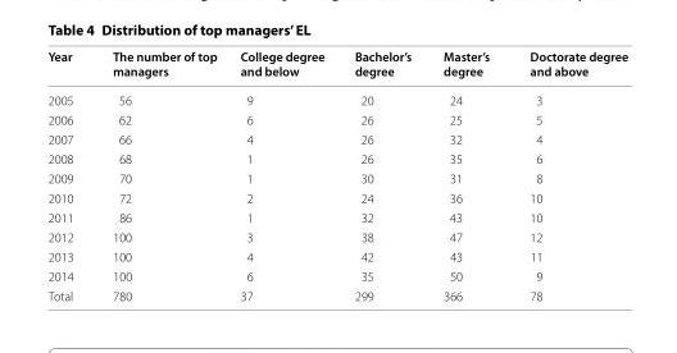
<table><thead><tr><td>Year</td><td>The number of top managers</td><td>College degree and below</td><td>Bachelor’s degree</td><td>Master’s degree</td><td>Doctorate degree and above</td></tr></thead><tbody><tr><td>2005</td><td>56</td><td>9</td><td>20</td><td>24</td><td>3</td></tr><tr><td>2006</td><td>62</td><td>6</td><td>26</td><td>25</td><td>5</td></tr><tr><td>2007</td><td>66</td><td>4</td><td>26</td><td>32</td><td>4</td></tr><tr><td>2008</td><td>68</td><td>1</td><td>26</td><td>35</td><td>6</td></tr><tr><td>2009</td><td>70</td><td>1</td><td>30</td><td>31</td><td>8</td></tr><tr><td>2010</td><td>72</td><td>2</td><td>24</td><td>36</td><td>10</td></tr><tr><td>2011</td><td>86</td><td>1</td><td>32</td><td>43</td><td>10</td></tr><tr><td>2012</td><td>100</td><td>3</td><td>38</td><td>47</td><td>12</td></tr><tr><td>2013</td><td>100</td><td>4</td><td>42</td><td>43</td><td>11</td></tr><tr><td>2014</td><td>100</td><td>6</td><td>35</td><td>50</td><td>9</td></tr><tr><td>Total</td><td>780</td><td>37</td><td>299</td><td>366</td><td>78</td></tr></tbody></table>